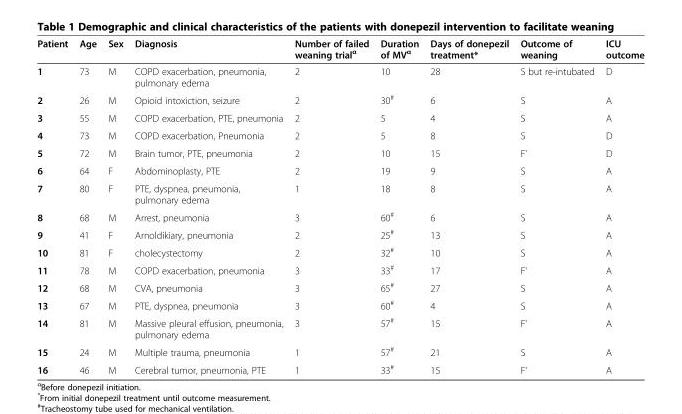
<table><thead><tr><td>Patient</td><td>Age</td><td>Sex</td><td>Diagnosis</td><td>Number of failed weaning trial<sup>α</sup></td><td>Duration of MV<sup>α</sup></td><td>Days of donepezil treatment*</td><td>Outcome of weaning</td><td>ICU outcome</td></tr></thead><tbody><tr><td>1</td><td>73</td><td>M</td><td>COPD exacerbation, pneumonia, pulmonary edema</td><td>2</td><td>10</td><td>28</td><td>S but re-intubated</td><td>D</td></tr><tr><td>2</td><td>26</td><td>M</td><td>Opioid intoxiction, seizure</td><td>2</td><td>30<sup>#</sup></td><td>6</td><td>S</td><td>A</td></tr><tr><td>3</td><td>55</td><td>M</td><td>COPD exacerbation, PTE, pneumonia</td><td>2</td><td>5</td><td>4</td><td>S</td><td>A</td></tr><tr><td>4</td><td>73</td><td>M</td><td>COPD exacerbation, Pneumonia</td><td>2</td><td>5</td><td>8</td><td>S</td><td>D</td></tr><tr><td>5</td><td>72</td><td>M</td><td>Brain tumor, PTE, pneumonia</td><td>2</td><td>10</td><td>15</td><td>F&#x27;</td><td>D</td></tr><tr><td>6</td><td>64</td><td>F</td><td>Abdominoplasty, PTE</td><td>2</td><td>19</td><td>9</td><td>S</td><td>A</td></tr><tr><td>7</td><td>80</td><td>F</td><td>PTE, dyspnea, pneumonia, pulmonary edema</td><td>1</td><td>18</td><td>8</td><td>S</td><td>A</td></tr><tr><td>8</td><td>68</td><td>M</td><td>Arrest, pneumonia</td><td>3</td><td>60<sup>#</sup></td><td>6</td><td>S</td><td>A</td></tr><tr><td>9</td><td>41</td><td>F</td><td>Arnoldikiary, pneumonia</td><td>2</td><td>25<sup>#</sup></td><td>13</td><td>S</td><td>A</td></tr><tr><td>10</td><td>81</td><td>F</td><td>cholecystectomy</td><td>2</td><td>32<sup>#</sup></td><td>10</td><td>S</td><td>A</td></tr><tr><td>11</td><td>78</td><td>M</td><td>COPD exacerbation, pneumonia</td><td>3</td><td>33<sup>#</sup></td><td>17</td><td>F&#x27;</td><td>A</td></tr><tr><td>12</td><td>68</td><td>M</td><td>CVA, pneumonia</td><td>3</td><td>65<sup>#</sup></td><td>27</td><td>S</td><td>A</td></tr><tr><td>13</td><td>67</td><td>M</td><td>PTE, dyspnea, pneumonia</td><td>3</td><td>60<sup>#</sup></td><td>4</td><td>S</td><td>A</td></tr><tr><td>14</td><td>81</td><td>M</td><td>Massive pleural effusion, pneumonia, pulmonary edema</td><td>3</td><td>57<sup>#</sup></td><td>15</td><td>F&#x27;</td><td>A</td></tr><tr><td>15</td><td>24</td><td>M</td><td>Multiple trauma, pneumonia</td><td>1</td><td>57<sup>#</sup></td><td>21</td><td>S</td><td>A</td></tr><tr><td>16</td><td>46</td><td>M</td><td>Cerebral tumor, pneumonia, PTE</td><td>1</td><td>33<sup>#</sup></td><td>15</td><td>F&#x27;</td><td>A</td></tr></tbody></table>